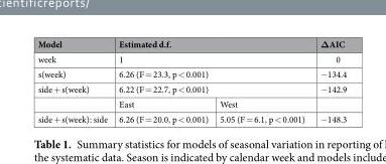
<table><thead><tr><td>Model</td><td colspan="2">Estimated d.f.</td><td>ΔAIC</td></tr></thead><tbody><tr><td>week</td><td colspan="2">1</td><td>0</td></tr><tr><td>s(week)</td><td colspan="2">6.26 (F = 23.3, p &lt; 0.001)</td><td>−134.4</td></tr><tr><td rowspan="2">side + s(week)</td><td colspan="2">6.22 (F = 22.7, p &lt; 0.001)</td><td>−142.9</td></tr><tr><td>East</td><td>West</td><td></td></tr><tr><td>side + s(week): side</td><td>6.26 (F = 20.0, p &lt; 0.001)</td><td>5.05 (F = 6.1, p &lt; 0.001)</td><td>−148.3</td></tr></tbody></table>